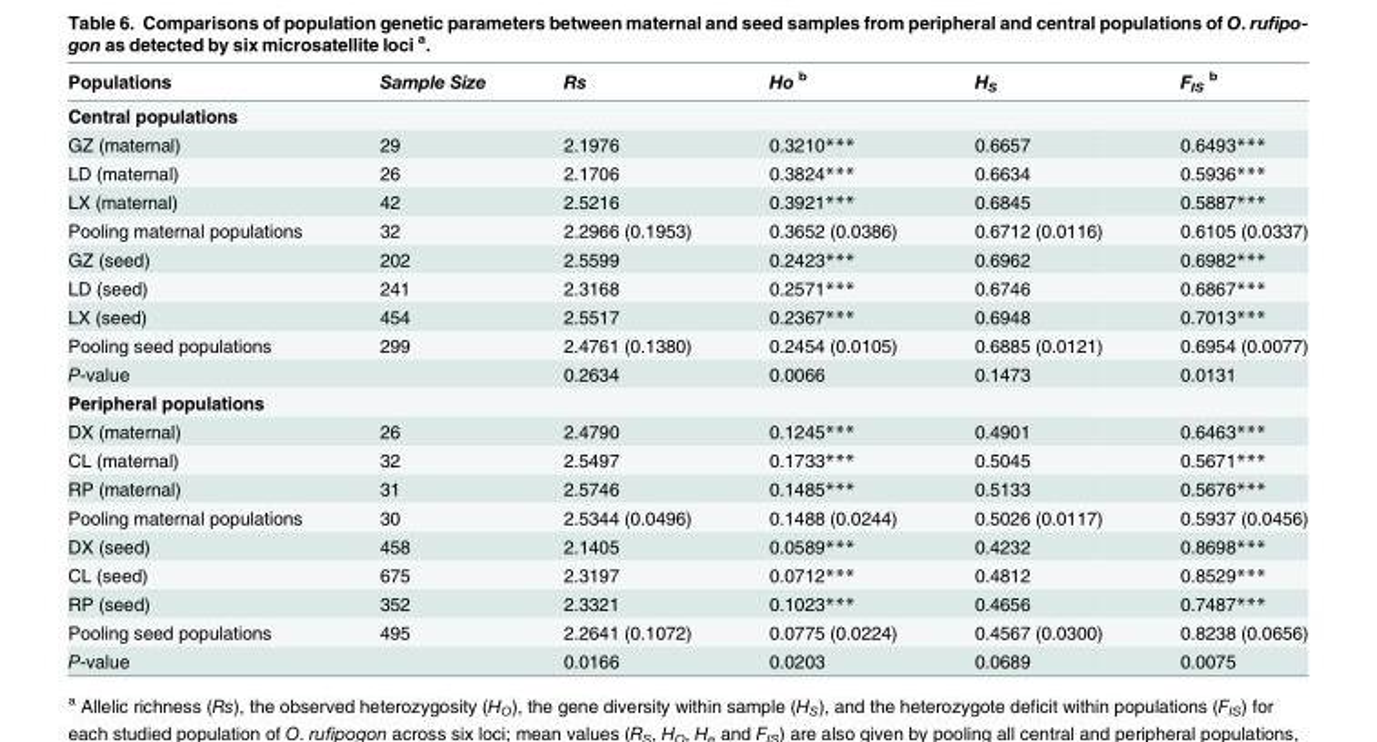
<table><thead><tr><td>Populations</td><td>Sample Size</td><td>Rs</td><td>Ho <sup>b</sup></td><td>H<sub>S</sub></td><td>F<sub>IS</sub> <sup>b</sup></td></tr></thead><tbody><tr><td colspan="6">Central populations</td></tr><tr><td>GZ (maternal)</td><td>29</td><td>2.1976</td><td>0.3210***</td><td>0.6657</td><td>0.6493***</td></tr><tr><td>LD (maternal)</td><td>26</td><td>2.1706</td><td>0.3824***</td><td>0.6634</td><td>0.5936***</td></tr><tr><td>LX (maternal)</td><td>42</td><td>2.5216</td><td>0.3921***</td><td>0.6845</td><td>0.5887***</td></tr><tr><td>Pooling maternal populations</td><td>32</td><td>2.2966 (0.1953)</td><td>0.3652 (0.0386)</td><td>0.6712 (0.0116)</td><td>0.6105 (0.0337)</td></tr><tr><td>GZ (seed)</td><td>202</td><td>2.5599</td><td>0.2423***</td><td>0.6962</td><td>0.6982***</td></tr><tr><td>LD (seed)</td><td>241</td><td>2.3168</td><td>0.2571***</td><td>0.6746</td><td>0.6867***</td></tr><tr><td>LX (seed)</td><td>454</td><td>2.5517</td><td>0.2367***</td><td>0.6948</td><td>0.7013***</td></tr><tr><td>Pooling seed populations</td><td>299</td><td>2.4761 (0.1380)</td><td>0.2454 (0.0105)</td><td>0.6885 (0.0121)</td><td>0.6954 (0.0077)</td></tr><tr><td>P-value</td><td></td><td>0.2634</td><td>0.0066</td><td>0.1473</td><td>0.0131</td></tr><tr><td colspan="6">Peripheral populations</td></tr><tr><td>DX (maternal)</td><td>26</td><td>2.4790</td><td>0.1245***</td><td>0.4901</td><td>0.6463***</td></tr><tr><td>CL (maternal)</td><td>32</td><td>2.5497</td><td>0.1733***</td><td>0.5045</td><td>0.5671***</td></tr><tr><td>RP (maternal)</td><td>31</td><td>2.5746</td><td>0.1485***</td><td>0.5133</td><td>0.5676***</td></tr><tr><td>Pooling maternal populations</td><td>30</td><td>2.5344 (0.0496)</td><td>0.1488 (0.0244)</td><td>0.5026 (0.0117)</td><td>0.5937 (0.0456)</td></tr><tr><td>DX (seed)</td><td>458</td><td>2.1405</td><td>0.0589***</td><td>0.4232</td><td>0.8698***</td></tr><tr><td>CL (seed)</td><td>675</td><td>2.3197</td><td>0.0712***</td><td>0.4812</td><td>0.8529***</td></tr><tr><td>RP (seed)</td><td>352</td><td>2.3321</td><td>0.1023***</td><td>0.4656</td><td>0.7487***</td></tr><tr><td>Pooling seed populations</td><td>495</td><td>2.2641 (0.1072)</td><td>0.0775 (0.0224)</td><td>0.4567 (0.0300)</td><td>0.8238 (0.0656)</td></tr><tr><td>P-value</td><td></td><td>0.0166</td><td>0.0203</td><td>0.0689</td><td>0.0075</td></tr></tbody></table>